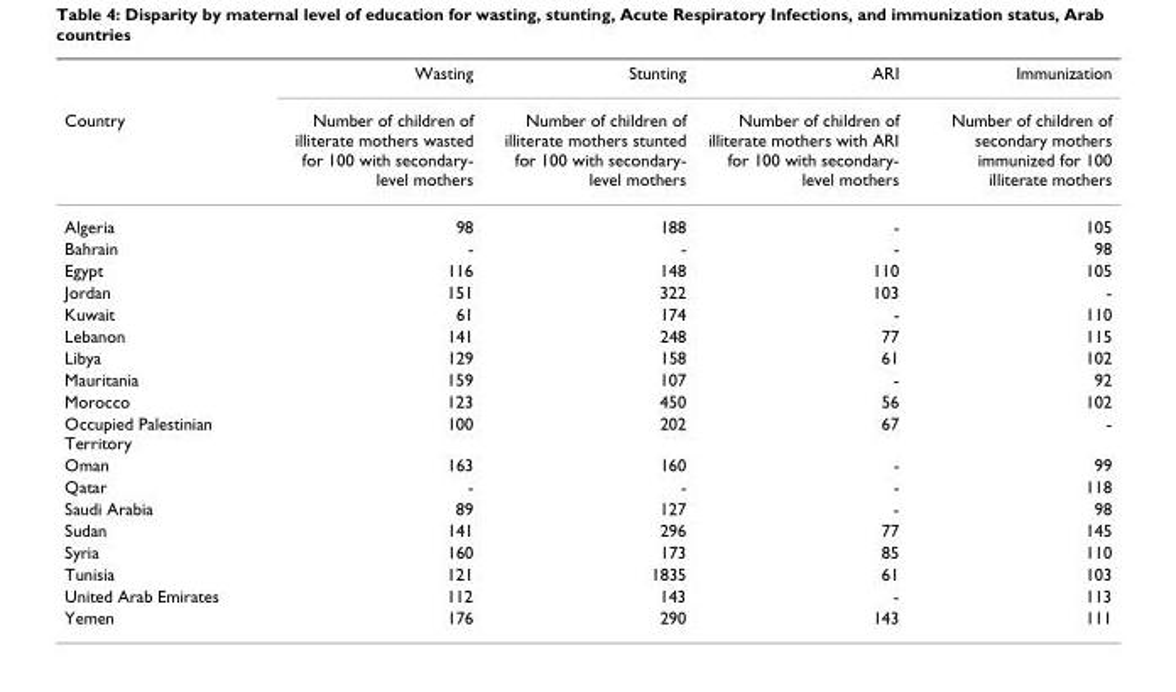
<table><thead><tr><td rowspan="2">Country</td><td rowspan="2">Wasting Number of children of illiterate mothers wasted for 100 with secondary- level mothers</td><td rowspan="2">Stunting Number of children of illiterate mothers stunted for 100 with secondary- level mothers</td><td rowspan="2">ARI Number of children of illiterate mothers with ARI for 100 with secondary- level mothers</td><td rowspan="2">Immunization Number of children of secondary mothers immunized for 100 illiterate mothers</td></tr><tr></tr></thead><tbody><tr><td>Algeria</td><td>98</td><td>188</td><td>-</td><td>105</td></tr><tr><td>Bahrain</td><td>-</td><td>-</td><td>-</td><td>98</td></tr><tr><td>Egypt</td><td>116</td><td>148</td><td>110</td><td>105</td></tr><tr><td>Jordan</td><td>151</td><td>322</td><td>103</td><td>-</td></tr><tr><td>Kuwait</td><td>61</td><td>174</td><td>-</td><td>110</td></tr><tr><td>Lebanon</td><td>141</td><td>248</td><td>77</td><td>115</td></tr><tr><td>Libya</td><td>129</td><td>158</td><td>61</td><td>102</td></tr><tr><td>Mauritania</td><td>159</td><td>107</td><td>-</td><td>92</td></tr><tr><td>Morocco</td><td>123</td><td>450</td><td>56</td><td>102</td></tr><tr><td>Occupied Palestinian Territory</td><td>100</td><td>202</td><td>67</td><td>-</td></tr><tr><td>Oman</td><td>163</td><td>160</td><td>-</td><td>99</td></tr><tr><td>Qatar</td><td>-</td><td>-</td><td>-</td><td>118</td></tr><tr><td>Saudi Arabia</td><td>89</td><td>127</td><td>-</td><td>98</td></tr><tr><td>Sudan</td><td>141</td><td>296</td><td>77</td><td>145</td></tr><tr><td>Syria</td><td>160</td><td>173</td><td>85</td><td>110</td></tr><tr><td>Tunisia</td><td>121</td><td>1835</td><td>61</td><td>103</td></tr><tr><td>United Arab Emirates</td><td>112</td><td>143</td><td>-</td><td>113</td></tr><tr><td>Yemen</td><td>176</td><td>290</td><td>143</td><td>111</td></tr></tbody></table>